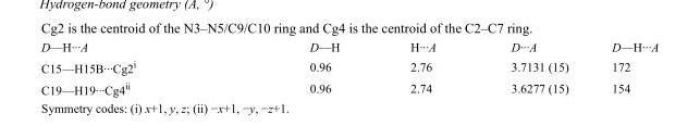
<table><tbody><tr><td>D—H···A</td><td>D—H</td><td>H···A</td><td>D···A</td><td>D—H···A</td></tr><tr><td>C15—H15B···Cg2<sup>i</sup></td><td>0.96</td><td>2.76</td><td>3.7131 (15)</td><td>172</td></tr><tr><td>C19—H19···Cg4<sup>ii</sup></td><td>0.96</td><td>2.74</td><td>3.6277 (15)</td><td>154</td></tr></tbody></table>